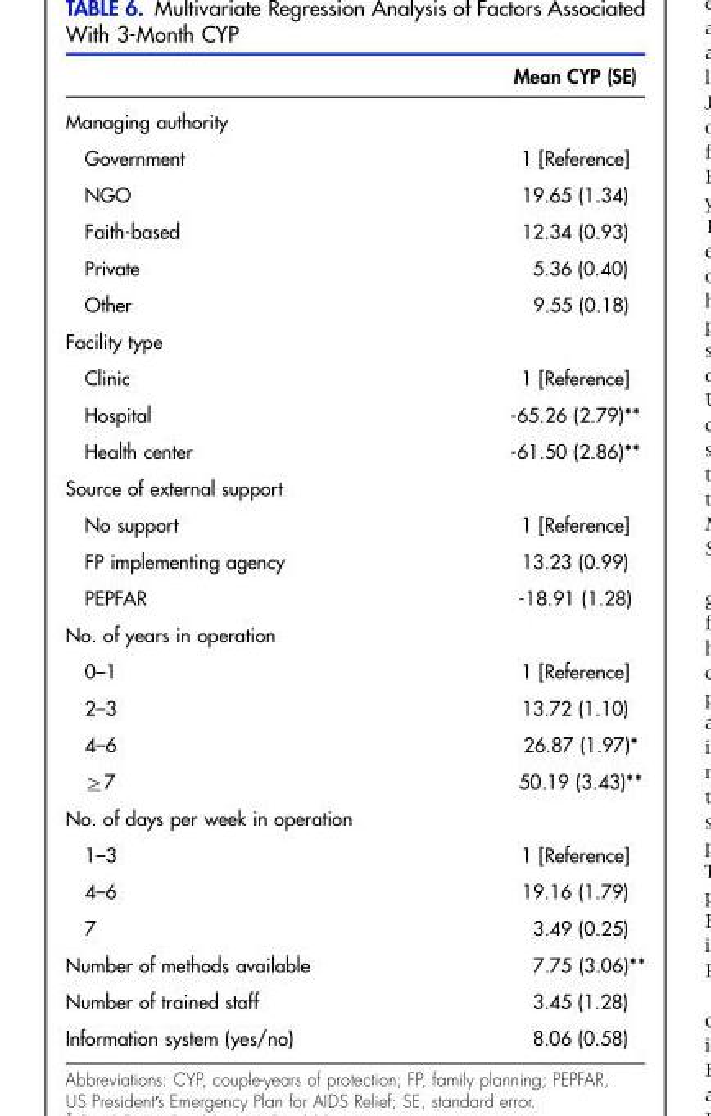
<table><thead><tr><td></td><td>Mean CYP (SE)</td></tr></thead><tbody><tr><td colspan="2">Managing authority</td></tr><tr><td>Government</td><td>1 [Reference]</td></tr><tr><td>NGO</td><td>19.65 (1.34)</td></tr><tr><td>Faith-based</td><td>12.34 (0.93)</td></tr><tr><td>Private</td><td>5.36 (0.40)</td></tr><tr><td>Other</td><td>9.55 (0.18)</td></tr><tr><td colspan="2">Facility type</td></tr><tr><td>Clinic</td><td>1 [Reference]</td></tr><tr><td>Hospital</td><td>-65.26 (2.79)**</td></tr><tr><td>Health center</td><td>-61.50 (2.86)**</td></tr><tr><td colspan="2">Source of external support</td></tr><tr><td>No support</td><td>1 [Reference]</td></tr><tr><td>FP implementing agency</td><td>13.23 (0.99)</td></tr><tr><td>PEPFAR</td><td>-18.91 (1.28)</td></tr><tr><td colspan="2">No. of years in operation</td></tr><tr><td>0–1</td><td>1 [Reference]</td></tr><tr><td>2–3</td><td>13.72 (1.10)</td></tr><tr><td>4–6</td><td>26.87 (1.97)*</td></tr><tr><td>≥7</td><td>50.19 (3.43)**</td></tr><tr><td colspan="2">No. of days per week in operation</td></tr><tr><td>1–3</td><td>1 [Reference]</td></tr><tr><td>4–6</td><td>19.16 (1.79)</td></tr><tr><td>7</td><td>3.49 (0.25)</td></tr><tr><td>Number of methods available</td><td>7.75 (3.06)**</td></tr><tr><td>Number of trained staff</td><td>3.45 (1.28)</td></tr><tr><td>Information system (yes/no)</td><td>8.06 (0.58)</td></tr></tbody></table>